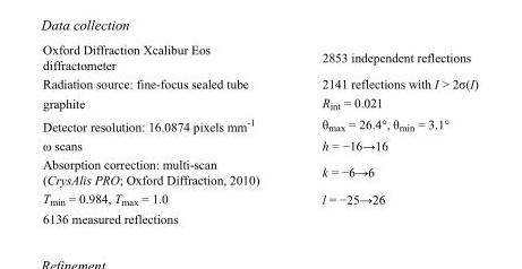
<table><tbody><tr><td>Oxford Diffraction Xcalibur Eos diffractometer</td><td>2853 independent reflections</td></tr><tr><td>Radiation source: fine-focus sealed tube</td><td>2141 reflections with I &gt; 2σ(I)</td></tr><tr><td>graphite</td><td>R<sub>int</sub> = 0.021</td></tr><tr><td>Detector resolution: 16.0874 pixels mm<sup>-1</sup></td><td>θ<sub>max</sub> = 26.4°, θ<sub>min</sub> = 3.1°</td></tr><tr><td>ω scans</td><td>h = −16→16</td></tr><tr><td>Absorption correction: multi-scan (CrysAlis PRO; Oxford Diffraction, 2010)</td><td>k = −6→6</td></tr><tr><td>T<sub>min</sub> = 0.984, T<sub>max</sub> = 1.0</td><td>l = −25→26</td></tr><tr><td>6136 measured reflections</td><td></td></tr></tbody></table>